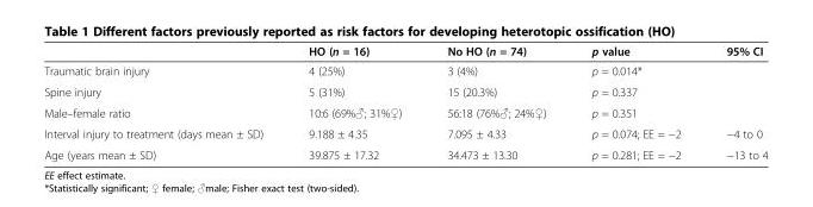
<table><thead><tr><td></td><td>HO (n = 16)</td><td>No HO (n = 74)</td><td>p value</td><td>95% CI</td></tr></thead><tbody><tr><td>Traumatic brain injury</td><td>4 (25%)</td><td>3 (4%)</td><td>p = 0.014*</td><td></td></tr><tr><td>Spine injury</td><td>5 (31%)</td><td>15 (20.3%)</td><td>p = 0.337</td><td></td></tr><tr><td>Male–female ratio</td><td>10:6 (69%♂; 31%♀)</td><td>56:18 (76%♂; 24%♀)</td><td>p = 0.351</td><td></td></tr><tr><td>Interval injury to treatment (days mean ± SD)</td><td>9.188 ± 4.35</td><td>7.095 ± 4.33</td><td>p = 0.074; EE = −2</td><td>−4 to 0</td></tr><tr><td>Age (years mean ± SD)</td><td>39.875 ± 17.32</td><td>34.473 ± 13.30</td><td>p = 0.281; EE = −2</td><td>−13 to 4</td></tr></tbody></table>